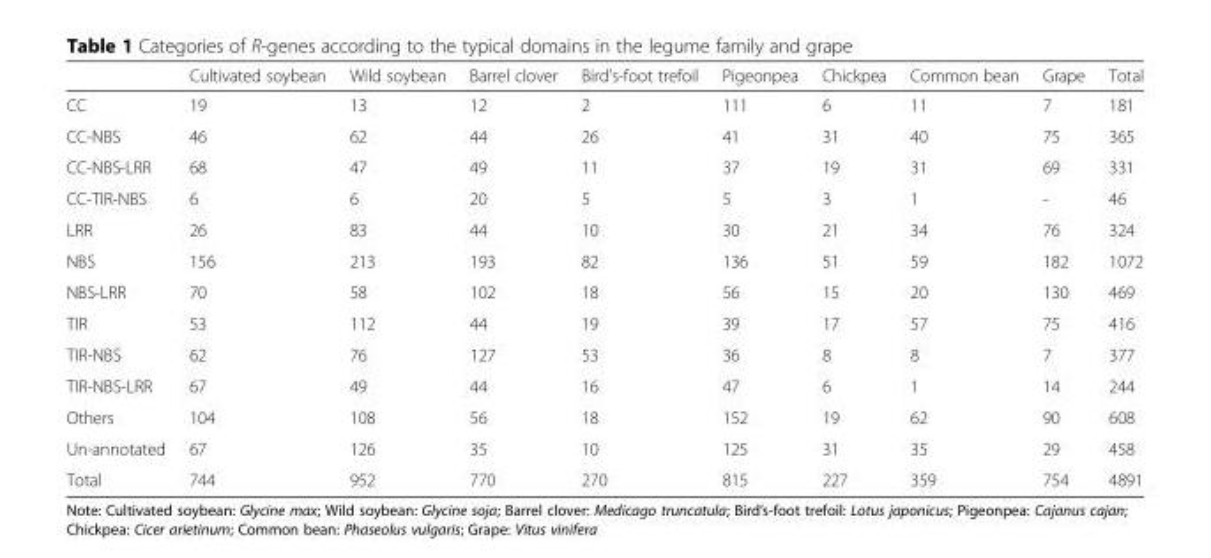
<table><thead><tr><td></td><td>Cultivated soybean</td><td>Wild soybean</td><td>Barrel clover</td><td>Bird’s-foot trefoil</td><td>Pigeonpea</td><td>Chickpea</td><td>Common bean</td><td>Grape</td><td>Total</td></tr></thead><tbody><tr><td>CC</td><td>19</td><td>13</td><td>12</td><td>2</td><td>111</td><td>6</td><td>11</td><td>7</td><td>181</td></tr><tr><td>CC-NBS</td><td>46</td><td>62</td><td>44</td><td>26</td><td>41</td><td>31</td><td>40</td><td>75</td><td>365</td></tr><tr><td>CC-NBS-LRR</td><td>68</td><td>47</td><td>49</td><td>11</td><td>37</td><td>19</td><td>31</td><td>69</td><td>331</td></tr><tr><td>CC-TIR-NBS</td><td>6</td><td>6</td><td>20</td><td>5</td><td>5</td><td>3</td><td>1</td><td>-</td><td>46</td></tr><tr><td>LRR</td><td>26</td><td>83</td><td>44</td><td>10</td><td>30</td><td>21</td><td>34</td><td>76</td><td>324</td></tr><tr><td>NBS</td><td>156</td><td>213</td><td>193</td><td>82</td><td>136</td><td>51</td><td>59</td><td>182</td><td>1072</td></tr><tr><td>NBS-LRR</td><td>70</td><td>58</td><td>102</td><td>18</td><td>56</td><td>15</td><td>20</td><td>130</td><td>469</td></tr><tr><td>TIR</td><td>53</td><td>112</td><td>44</td><td>19</td><td>39</td><td>17</td><td>57</td><td>75</td><td>416</td></tr><tr><td>TIR-NBS</td><td>62</td><td>76</td><td>127</td><td>53</td><td>36</td><td>8</td><td>8</td><td>7</td><td>377</td></tr><tr><td>TIR-NBS-LRR</td><td>67</td><td>49</td><td>44</td><td>16</td><td>47</td><td>6</td><td>1</td><td>14</td><td>244</td></tr><tr><td>Others</td><td>104</td><td>108</td><td>56</td><td>18</td><td>152</td><td>19</td><td>62</td><td>90</td><td>608</td></tr><tr><td>Un-annotated</td><td>67</td><td>126</td><td>35</td><td>10</td><td>125</td><td>31</td><td>35</td><td>29</td><td>458</td></tr><tr><td>Total</td><td>744</td><td>952</td><td>770</td><td>270</td><td>815</td><td>227</td><td>359</td><td>754</td><td>4891</td></tr></tbody></table>